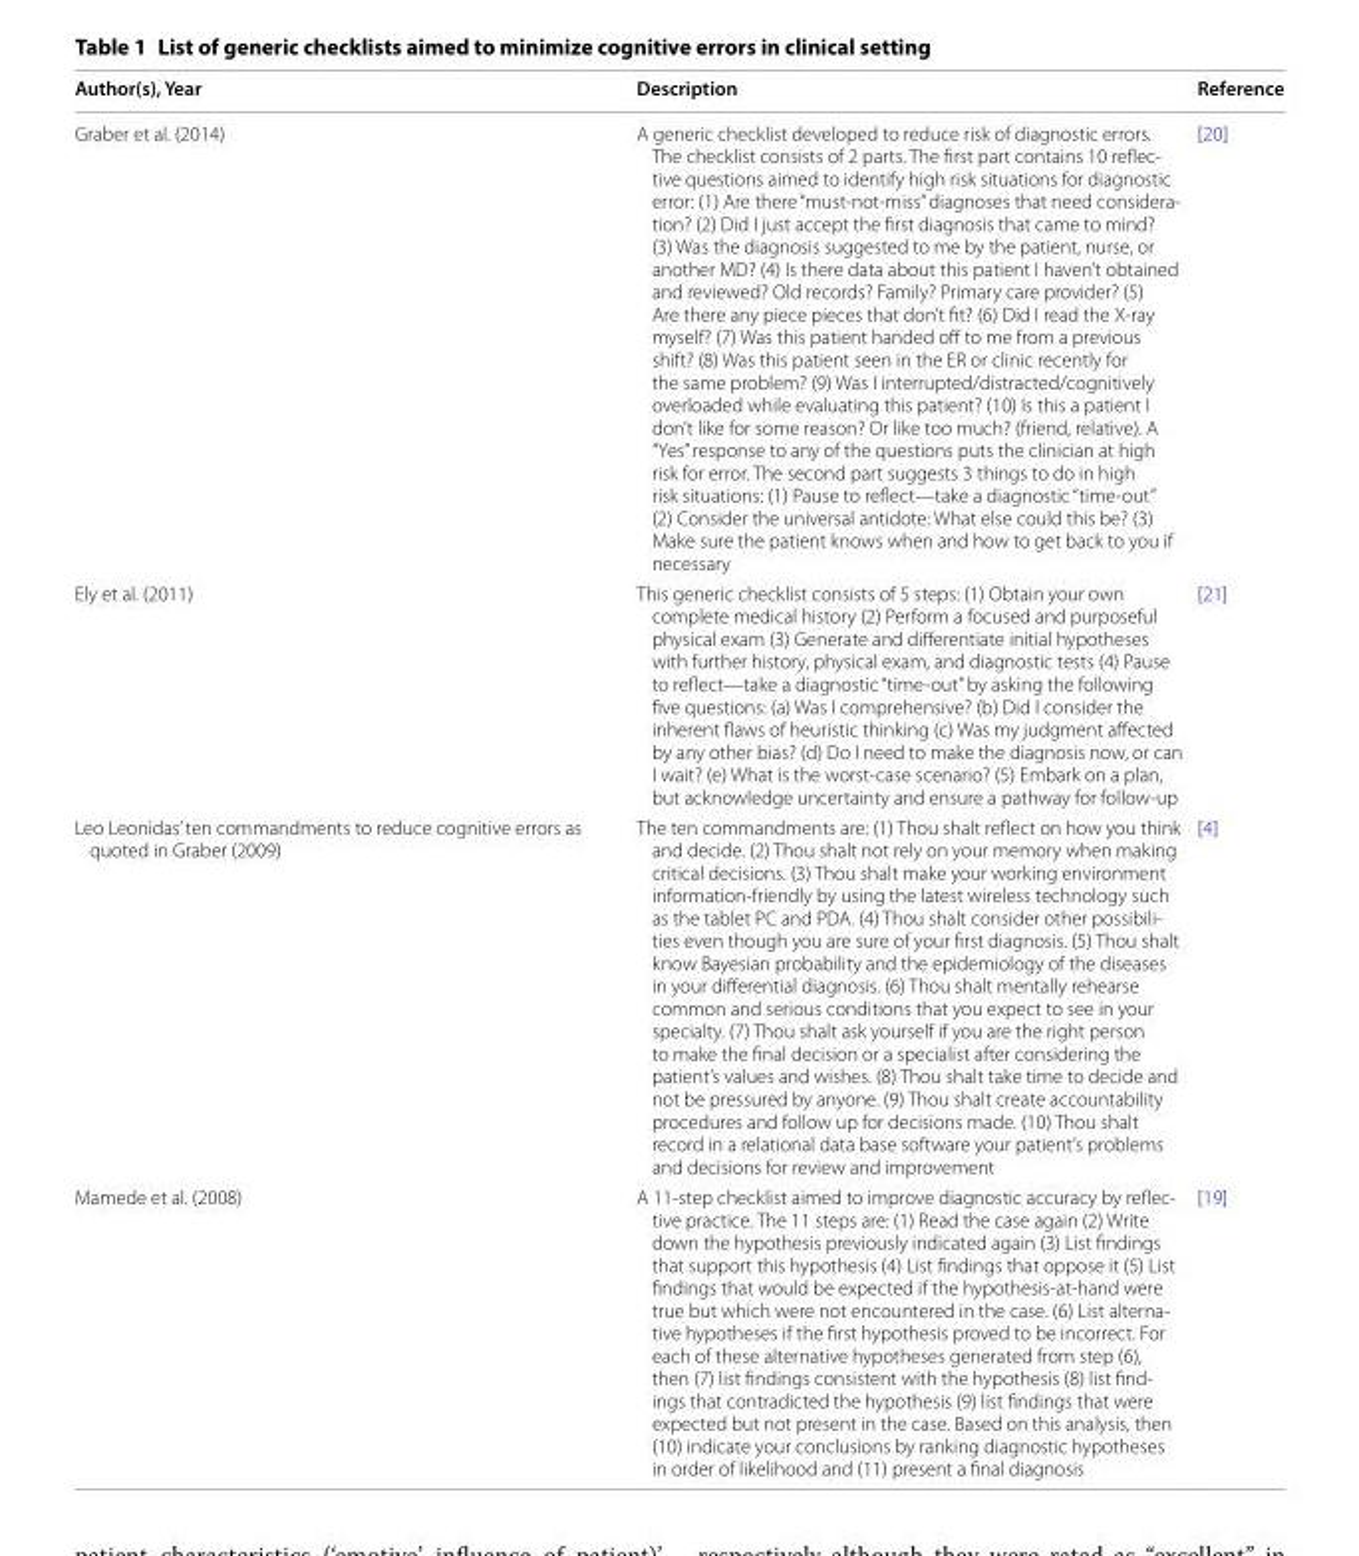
<table><thead><tr><td>Author(s), Year</td><td>Description</td><td>Reference</td></tr></thead><tbody><tr><td>Graber et al. (2014)</td><td>A generic checklist developed to reduce risk of diagnostic errors. The checklist consists of 2 parts. The first part contains 10 reflec- tive questions aimed to identify high risk situations for diagnostic error: (1) Are there “must-not-miss” diagnoses that need considera- tion? (2) Did I just accept the first diagnosis that came to mind? (3) Was the diagnosis suggested to me by the patient, nurse, or another MD? (4) Is there data about this patient I haven’t obtained and reviewed? Old records? Family? Primary care provider? (5) Are there any piece pieces that don’t fit? (6) Did I read the X-ray myself? (7) Was this patient handed off to me from a previous shift? (8) Was this patient seen in the ER or clinic recently for the same problem? (9) Was I interrupted/distracted/cognitively overloaded while evaluating this patient? (10) Is this a patient I don’t like for some reason? Or like too much? (friend, relative). A “Yes” response to any of the questions puts the clinician at high risk for error. The second part suggests 3 things to do in high risk situations: (1) Pause to reflect—take a diagnostic “time-out” (2) Consider the universal antidote: What else could this be? (3) Make sure the patient knows when and how to get back to you if necessary</td><td>[20]</td></tr><tr><td>Ely et al. (2011)</td><td>This generic checklist consists of 5 steps: (1) Obtain your own complete medical history (2) Perform a focused and purposeful physical exam (3) Generate and differentiate initial hypotheses with further history, physical exam, and diagnostic tests (4) Pause to reflect—take a diagnostic “time-out” by asking the following five questions: (a) Was I comprehensive? (b) Did I consider the inherent flaws of heuristic thinking (c) Was my judgment affected by any other bias? (d) Do I need to make the diagnosis now, or can I wait? (e) What is the worst-case scenario? (5) Embark on a plan, but acknowledge uncertainty and ensure a pathway for follow-up</td><td>[21]</td></tr><tr><td>Leo Leonidas’ ten commandments to reduce cognitive errors as quoted in Graber (2009)</td><td>The ten commandments are: (1) Thou shalt reflect on how you think and decide. (2) Thou shalt not rely on your memory when making critical decisions. (3) Thou shalt make your working environment information-friendly by using the latest wireless technology such as the tablet PC and PDA. (4) Thou shalt consider other possibili- ties even though you are sure of your first diagnosis. (5) Thou shalt know Bayesian probability and the epidemiology of the diseases in your differential diagnosis. (6) Thou shalt mentally rehearse common and serious conditions that you expect to see in your specialty. (7) Thou shalt ask yourself if you are the right person to make the final decision or a specialist after considering the patient’s values and wishes. (8) Thou shalt take time to decide and not be pressured by anyone. (9) Thou shalt create accountability procedures and follow up for decisions made. (10) Thou shalt record in a relational data base software your patient’s problems and decisions for review and improvement</td><td>[4]</td></tr><tr><td>Mamede et al. (2008)</td><td>A 11-step checklist aimed to improve diagnostic accuracy by reflec- tive practice. The 11 steps are: (1) Read the case again (2) Write down the hypothesis previously indicated again (3) List findings that support this hypothesis (4) List findings that oppose it (5) List findings that would be expected if the hypothesis-at-hand were true but which were not encountered in the case. (6) List alterna- tive hypotheses if the first hypothesis proved to be incorrect. For each of these alternative hypotheses generated from step (6), then (7) list findings consistent with the hypothesis (8) list find- ings that contradicted the hypothesis (9) list findings that were expected but not present in the case. Based on this analysis, then (10) indicate your conclusions by ranking diagnostic hypotheses in order of likelihood and (11) present a final diagnosis</td><td>[19]</td></tr></tbody></table>